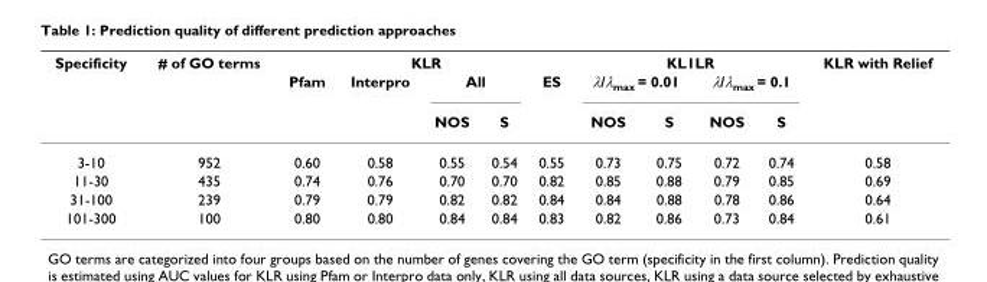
<table><thead><tr><td rowspan="3">Specificity</td><td rowspan="3"># of GO terms</td><td colspan="5">KLR</td><td colspan="4">KL1LR</td><td rowspan="3">KLR with Relief</td></tr><tr><td rowspan="2">Pfam</td><td rowspan="2">Interpro</td><td colspan="2">All</td><td rowspan="2">ES</td><td colspan="2">λ/λ<sub>max</sub> = 0.01</td><td colspan="2">λ/λ<sub>max</sub> = 0.1</td></tr><tr><td>NOS</td><td>S</td><td>NOS</td><td>S</td><td>NOS</td><td>S</td></tr></thead><tbody><tr><td>3-10</td><td>952</td><td>0.60</td><td>0.58</td><td>0.55</td><td>0.54</td><td>0.55</td><td>0.73</td><td>0.75</td><td>0.72</td><td>0.74</td><td>0.58</td></tr><tr><td>11-30</td><td>435</td><td>0.74</td><td>0.76</td><td>0.70</td><td>0.70</td><td>0.82</td><td>0.85</td><td>0.88</td><td>0.79</td><td>0.85</td><td>0.69</td></tr><tr><td>31-100</td><td>239</td><td>0.79</td><td>0.79</td><td>0.82</td><td>0.82</td><td>0.84</td><td>0.84</td><td>0.88</td><td>0.78</td><td>0.86</td><td>0.64</td></tr><tr><td>101-300</td><td>100</td><td>0.80</td><td>0.80</td><td>0.84</td><td>0.84</td><td>0.83</td><td>0.82</td><td>0.86</td><td>0.73</td><td>0.84</td><td>0.61</td></tr></tbody></table>